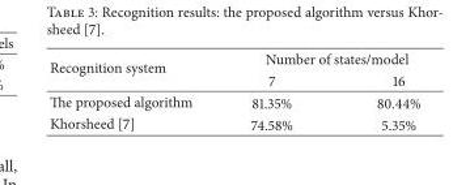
<table><thead><tr><td rowspan="2">Recognition system</td><td colspan="2">Number of states/model</td></tr><tr><td>7</td><td>16</td></tr></thead><tbody><tr><td>The proposed algorithm</td><td>81.35%</td><td>80.44%</td></tr><tr><td>Khorsheed [7]</td><td>74.58%</td><td>5.35%</td></tr></tbody></table>